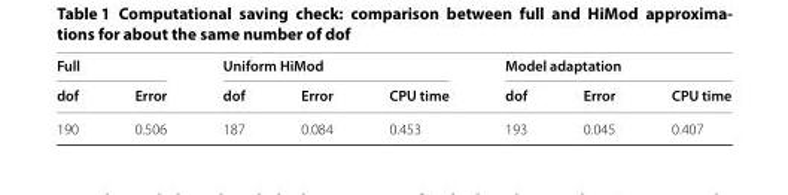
<table><thead><tr><td colspan="2">Full</td><td colspan="3">Uniform HiMod</td><td colspan="3">Model adaptation</td></tr><tr><td>dof</td><td>Error</td><td>dof</td><td>Error</td><td>CPU time</td><td>dof</td><td>Error</td><td>CPU time</td></tr></thead><tbody><tr><td>190</td><td>0.506</td><td>187</td><td>0.084</td><td>0.453</td><td>193</td><td>0.045</td><td>0.407</td></tr></tbody></table>